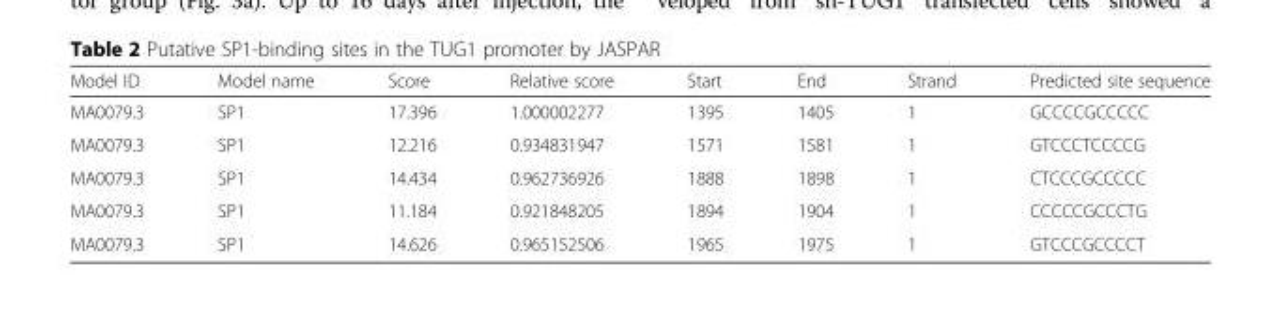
<table><thead><tr><td>Model ID</td><td>Model name</td><td>Score</td><td>Relative score</td><td>Start</td><td>End</td><td>Strand</td><td>Predicted site sequence</td></tr></thead><tbody><tr><td>MA0079.3</td><td>SP1</td><td>17.396</td><td>1.000002277</td><td>1395</td><td>1405</td><td>1</td><td>GCCCCGCCCCC</td></tr><tr><td>MA0079.3</td><td>SP1</td><td>12.216</td><td>0.934831947</td><td>1571</td><td>1581</td><td>1</td><td>GTCCCTCCCCG</td></tr><tr><td>MA0079.3</td><td>SP1</td><td>14.434</td><td>0.962736926</td><td>1888</td><td>1898</td><td>1</td><td>CTCCCGCCCCC</td></tr><tr><td>MA0079.3</td><td>SP1</td><td>11.184</td><td>0.921848205</td><td>1894</td><td>1904</td><td>1</td><td>CCCCCGCCCTG</td></tr><tr><td>MA0079.3</td><td>SP1</td><td>14.626</td><td>0.965152506</td><td>1965</td><td>1975</td><td>1</td><td>GTCCCGCCCCT</td></tr></tbody></table>